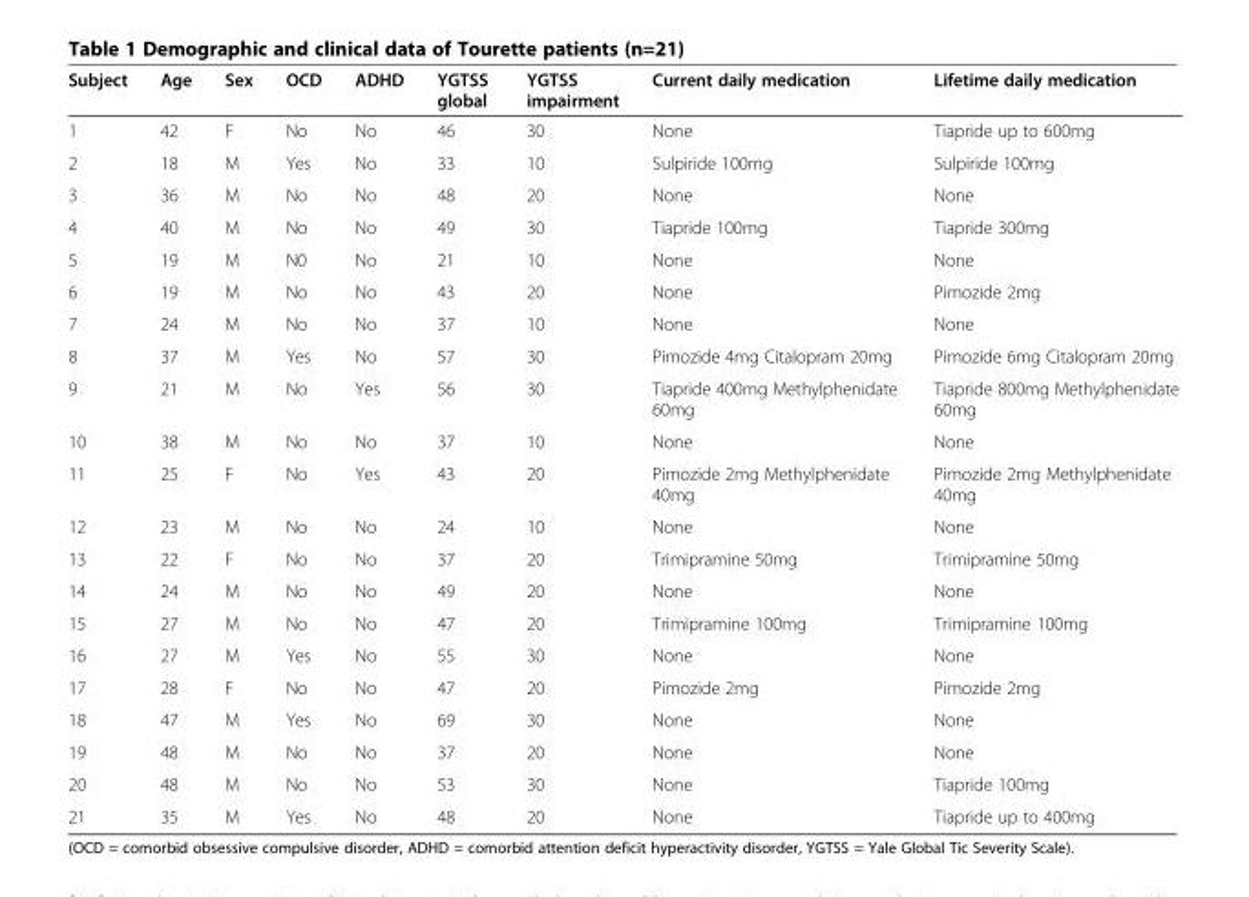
<table><thead><tr><td>Subject</td><td>Age</td><td>Sex</td><td>OCD</td><td>ADHD</td><td>YGTSS global</td><td>YGTSS impairment</td><td>Current daily medication</td><td>Lifetime daily medication</td></tr></thead><tbody><tr><td>1</td><td>42</td><td>F</td><td>No</td><td>No</td><td>46</td><td>30</td><td>None</td><td>Tiapride up to 600mg</td></tr><tr><td>2</td><td>18</td><td>M</td><td>Yes</td><td>No</td><td>33</td><td>10</td><td>Sulpiride 100mg</td><td>Sulpiride 100mg</td></tr><tr><td>3</td><td>36</td><td>M</td><td>No</td><td>No</td><td>48</td><td>20</td><td>None</td><td>None</td></tr><tr><td>4</td><td>40</td><td>M</td><td>No</td><td>No</td><td>49</td><td>30</td><td>Tiapride 100mg</td><td>Tiapride 300mg</td></tr><tr><td>5</td><td>19</td><td>M</td><td>N0</td><td>No</td><td>21</td><td>10</td><td>None</td><td>None</td></tr><tr><td>6</td><td>19</td><td>M</td><td>No</td><td>No</td><td>43</td><td>20</td><td>None</td><td>Pimozide 2mg</td></tr><tr><td>7</td><td>24</td><td>M</td><td>No</td><td>No</td><td>37</td><td>10</td><td>None</td><td>None</td></tr><tr><td>8</td><td>37</td><td>M</td><td>Yes</td><td>No</td><td>57</td><td>30</td><td>Pimozide 4mg Citalopram 20mg</td><td>Pimozide 6mg Citalopram 20mg</td></tr><tr><td>9</td><td>21</td><td>M</td><td>No</td><td>Yes</td><td>56</td><td>30</td><td>Tiapride 400mg Methylphenidate 60mg</td><td>Tiapride 800mg Methylphenidate 60mg</td></tr><tr><td>10</td><td>38</td><td>M</td><td>No</td><td>No</td><td>37</td><td>10</td><td>None</td><td>None</td></tr><tr><td>11</td><td>25</td><td>F</td><td>No</td><td>Yes</td><td>43</td><td>20</td><td>Pimozide 2mg Methylphenidate 40mg</td><td>Pimozide 2mg Methylphenidate 40mg</td></tr><tr><td>12</td><td>23</td><td>M</td><td>No</td><td>No</td><td>24</td><td>10</td><td>None</td><td>None</td></tr><tr><td>13</td><td>22</td><td>F</td><td>No</td><td>No</td><td>37</td><td>20</td><td>Trimipramine 50mg</td><td>Trimipramine 50mg</td></tr><tr><td>14</td><td>24</td><td>M</td><td>No</td><td>No</td><td>49</td><td>20</td><td>None</td><td>None</td></tr><tr><td>15</td><td>27</td><td>M</td><td>No</td><td>No</td><td>47</td><td>20</td><td>Trimipramine 100mg</td><td>Trimipramine 100mg</td></tr><tr><td>16</td><td>27</td><td>M</td><td>Yes</td><td>No</td><td>55</td><td>30</td><td>None</td><td>None</td></tr><tr><td>17</td><td>28</td><td>F</td><td>No</td><td>No</td><td>47</td><td>20</td><td>Pimozide 2mg</td><td>Pimozide 2mg</td></tr><tr><td>18</td><td>47</td><td>M</td><td>Yes</td><td>No</td><td>69</td><td>30</td><td>None</td><td>None</td></tr><tr><td>19</td><td>48</td><td>M</td><td>No</td><td>No</td><td>37</td><td>20</td><td>None</td><td>None</td></tr><tr><td>20</td><td>48</td><td>M</td><td>No</td><td>No</td><td>53</td><td>30</td><td>None</td><td>Tiapride 100mg</td></tr><tr><td>21</td><td>35</td><td>M</td><td>Yes</td><td>No</td><td>48</td><td>20</td><td>None</td><td>Tiapride up to 400mg</td></tr></tbody></table>